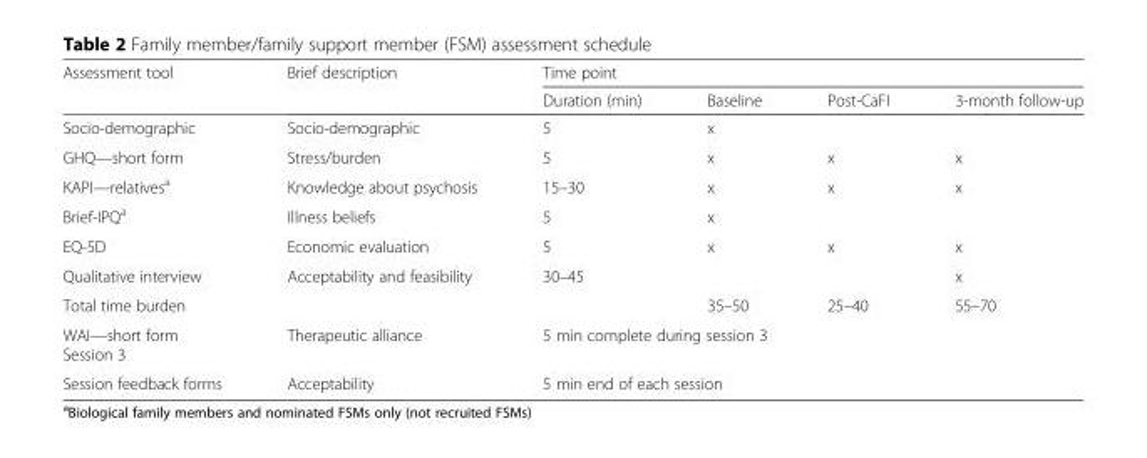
<table><thead><tr><td rowspan="2">Assessment tool</td><td rowspan="2">Brief description</td><td colspan="4">Time point</td></tr><tr><td>Duration (min)</td><td>Baseline</td><td>Post-CaFI</td><td>3-month follow-up</td></tr></thead><tbody><tr><td>Socio-demographic</td><td>Socio-demographic</td><td>5</td><td>x</td><td></td><td></td></tr><tr><td>GHQ—short form</td><td>Stress/burden</td><td>5</td><td>x</td><td>x</td><td>x</td></tr><tr><td>KAPI—relatives<sup>a</sup></td><td>Knowledge about psychosis</td><td>15–30</td><td>x</td><td>x</td><td>x</td></tr><tr><td>Brief-IPQ<sup>a</sup></td><td>Illness beliefs</td><td>5</td><td>x</td><td></td><td></td></tr><tr><td>EQ-5D</td><td>Economic evaluation</td><td>5</td><td>x</td><td>x</td><td>x</td></tr><tr><td>Qualitative interview</td><td>Acceptability and feasibility</td><td>30–45</td><td></td><td></td><td>x</td></tr><tr><td>Total time burden</td><td></td><td></td><td>35–50</td><td>25–40</td><td>55–70</td></tr><tr><td>WAI—short form Session 3</td><td>Therapeutic alliance</td><td colspan="4">5 min complete during session 3</td></tr><tr><td>Session feedback forms</td><td>Acceptability</td><td colspan="4">5 min end of each session</td></tr></tbody></table>